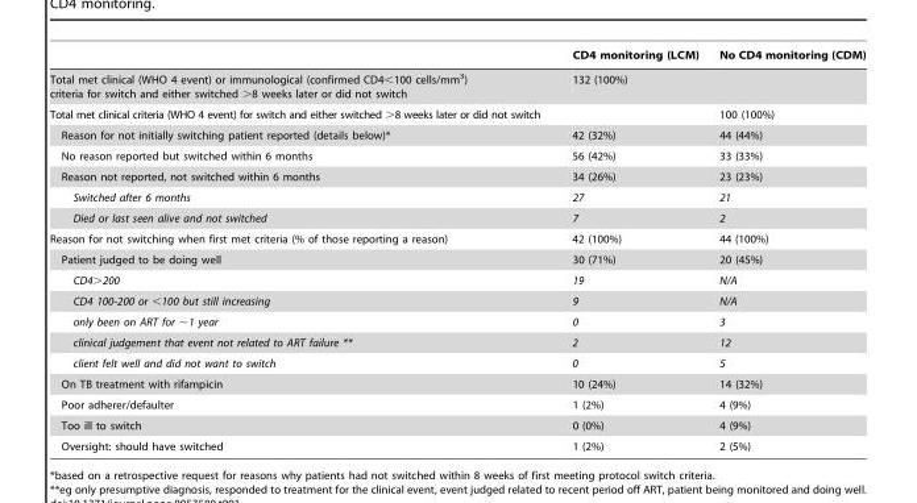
<table><thead><tr><td></td><td>CD4 monitoring (LCM)</td><td>No CD4 monitoring (CDM)</td></tr></thead><tbody><tr><td>Total met clinical (WHO 4 event) or immunological (confirmed CD4&lt;100 cells/mm<sup>3</sup>) criteria for switch and either switched &gt;8 weeks later or did not switch</td><td>132 (100%)</td><td></td></tr><tr><td>Total met clinical criteria (WHO 4 event) for switch and either switched &gt;8 weeks later or did not switch</td><td></td><td>100 (100%)</td></tr><tr><td>Reason for not initially switching patient reported (details below)*</td><td>42 (32%)</td><td>44 (44%)</td></tr><tr><td>No reason reported but switched within 6 months</td><td>56 (42%)</td><td>33 (33%)</td></tr><tr><td>Reason not reported, not switched within 6 months</td><td>34 (26%)</td><td>23 (23%)</td></tr><tr><td>Switched after 6 months</td><td>27</td><td>21</td></tr><tr><td>Died or last seen alive and not switched</td><td>7</td><td>2</td></tr><tr><td>Reason for not switching when first met criteria (% of those reporting a reason)</td><td>42 (100%)</td><td>44 (100%)</td></tr><tr><td>Patient judged to be doing well</td><td>30 (71%)</td><td>20 (45%)</td></tr><tr><td>CD4&gt;200</td><td>19</td><td>N/A</td></tr><tr><td>CD4 100-200 or &lt;100 but still increasing</td><td>9</td><td>N/A</td></tr><tr><td>only been on ART for ∼1 year</td><td>0</td><td>3</td></tr><tr><td>clinical judgement that event not related to ART failure **</td><td>2</td><td>12</td></tr><tr><td>client felt well and did not want to switch</td><td>0</td><td>5</td></tr><tr><td>On TB treatment with rifampicin</td><td>10 (24%)</td><td>14 (32%)</td></tr><tr><td>Poor adherer/defaulter</td><td>1 (2%)</td><td>4 (9%)</td></tr><tr><td>Too ill to switch</td><td>0 (0%)</td><td>4 (9%)</td></tr><tr><td>Oversight: should have switched</td><td>1 (2%)</td><td>2 (5%)</td></tr></tbody></table>